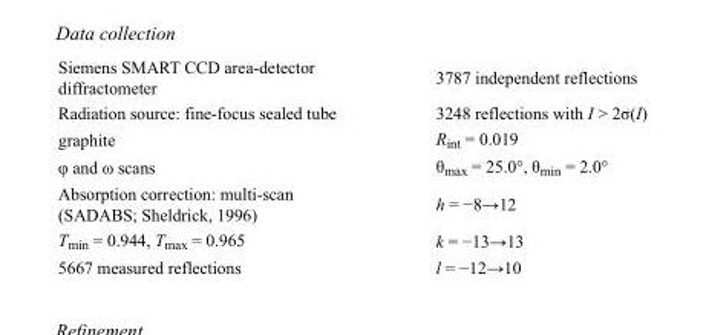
<table><tbody><tr><td>Siemens SMART CCD area-detector diffractometer</td><td>3787 independent reflections</td></tr><tr><td>Radiation source: fine-focus sealed tube</td><td>3248 reflections with I &gt; 2σ(I)</td></tr><tr><td>graphite</td><td>R<sub>int</sub> = 0.019</td></tr><tr><td>φ and ω scans</td><td>θ<sub>max</sub> = 25.0°, θ<sub>min</sub> = 2.0°</td></tr><tr><td>Absorption correction: multi-scan (SADABS; Sheldrick, 1996)</td><td>h = −8→12</td></tr><tr><td>T<sub>min</sub> = 0.944, T<sub>max</sub> = 0.965</td><td>k = −13→13</td></tr><tr><td>5667 measured reflections</td><td>l = −12→10</td></tr></tbody></table>